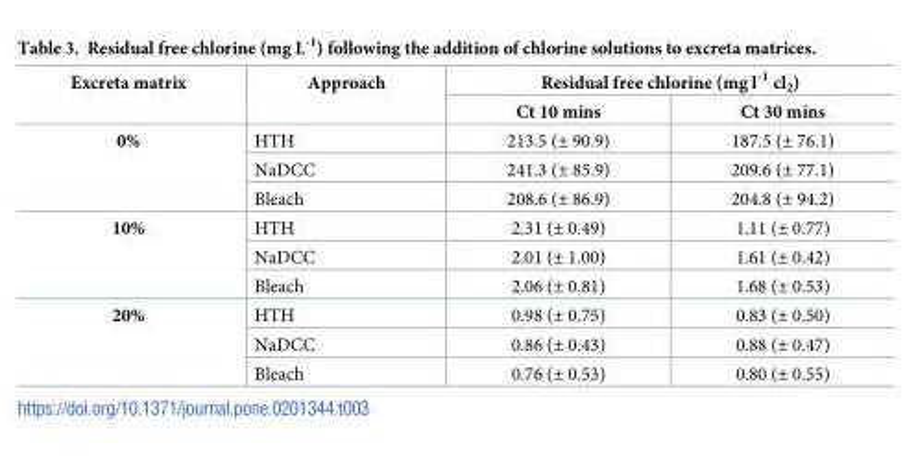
<table><thead><tr><td rowspan="2">Excreta matrix</td><td rowspan="2">Approach</td><td colspan="2">Residual free chlorine (mg l<sup>-1</sup> cl<sub>2</sub>)</td></tr><tr><td>Ct 10 mins</td><td>Ct 30 mins</td></tr></thead><tbody><tr><td rowspan="3">0%</td><td>HTH</td><td>213.5 (± 90.9)</td><td>187.5 (± 76.1)</td></tr><tr><td>NaDCC</td><td>241.3 (± 85.9)</td><td>209.6 (± 77.1)</td></tr><tr><td>Bleach</td><td>208.6 (± 86.9)</td><td>204.8 (± 94.2)</td></tr><tr><td rowspan="3">10%</td><td>HTH</td><td>2.31 (± 0.49)</td><td>1.11 (± 0.77)</td></tr><tr><td>NaDCC</td><td>2.01 (± 1.00)</td><td>1.61 (± 0.42)</td></tr><tr><td>Bleach</td><td>2.06 (± 0.81)</td><td>1.68 (± 0.53)</td></tr><tr><td rowspan="3">20%</td><td>HTH</td><td>0.98 (± 0.75)</td><td>0.83 (± 0.50)</td></tr><tr><td>NaDCC</td><td>0.86 (± 0.43)</td><td>0.88 (± 0.47)</td></tr><tr><td>Bleach</td><td>0.76 (± 0.53)</td><td>0.80 (± 0.55)</td></tr></tbody></table>